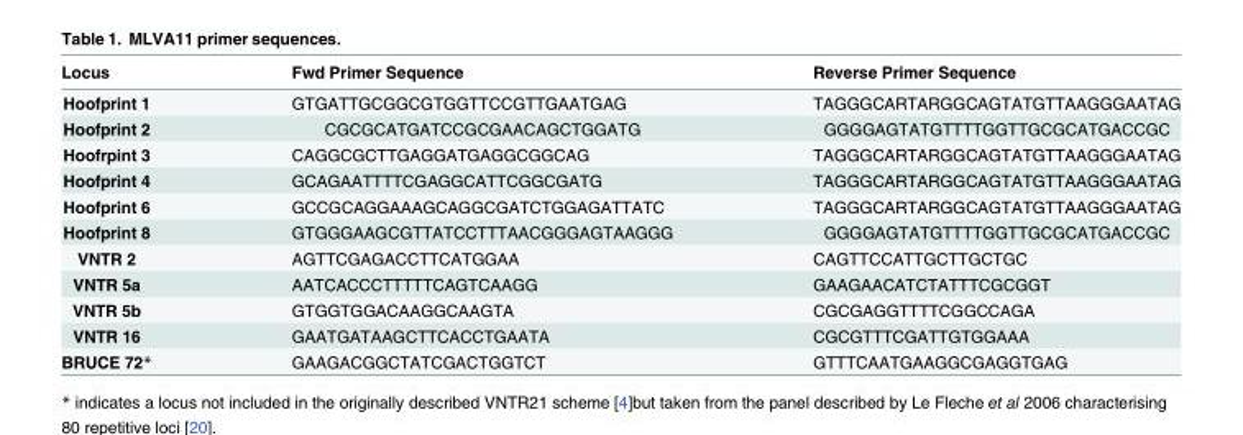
<table><thead><tr><td>Locus</td><td>Fwd Primer Sequence</td><td>Reverse Primer Sequence</td></tr></thead><tbody><tr><td>Hoofprint 1</td><td>GTGATTGCGGCGTGGTTCCGTTGAATGAG</td><td>TAGGGCARTARGGCAGTATGTTAAGGGAATAG</td></tr><tr><td>Hoofprint 2</td><td>CGCGCATGATCCGCGAACAGCTGGATG</td><td>GGGGAGTATGTTTTGGTTGCGCATGACCGC</td></tr><tr><td>Hoofrpint 3</td><td>CAGGCGCTTGAGGATGAGGCGGCAG</td><td>TAGGGCARTARGGCAGTATGTTAAGGGAATAG</td></tr><tr><td>Hoofprint 4</td><td>GCAGAATTTTCGAGGCATTCGGCGATG</td><td>TAGGGCARTARGGCAGTATGTTAAGGGAATAG</td></tr><tr><td>Hoofprint 6</td><td>GCCGCAGGAAAGCAGGCGATCTGGAGATTATC</td><td>TAGGGCARTARGGCAGTATGTTAAGGGAATAG</td></tr><tr><td>Hoofprint 8</td><td>GTGGGAAGCGTTATCCTTTAACGGGAGTAAGGG</td><td>GGGGAGTATGTTTTGGTTGCGCATGACCGC</td></tr><tr><td>VNTR 2</td><td>AGTTCGAGACCTTCATGGAA</td><td>CAGTTCCATTGCTTGCTGC</td></tr><tr><td>VNTR 5a</td><td>AATCACCCTTTTTCAGTCAAGG</td><td>GAAGAACATCTATTTCGCGGT</td></tr><tr><td>VNTR 5b</td><td>GTGGTGGACAAGGCAAGTA</td><td>CGCGAGGTTTTCGGCCAGA</td></tr><tr><td>VNTR 16</td><td>GAATGATAAGCTTCACCTGAATA</td><td>CGCGTTTCGATTGTGGAAA</td></tr><tr><td>BRUCE 72*</td><td>GAAGACGGCTATCGACTGGTCT</td><td>GTTTCAATGAAGGCGAGGTGAG</td></tr></tbody></table>